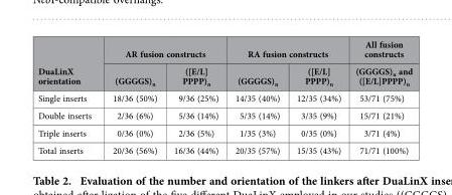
<table><thead><tr><td rowspan="2">DuaLinX orientation</td><td colspan="2">AR fusion constructs</td><td colspan="2">RA fusion constructs</td><td rowspan="2">All fusion constructs (GGGGS)<sub>n</sub> and ([E/L]PPPP)<sub>n</sub></td></tr><tr><td>(GGGGS)<sub>n</sub></td><td>([E/L] PPPP)<sub>n</sub></td><td>(GGGGS)<sub>n</sub></td><td>([E/L] PPPP)<sub>n</sub></td></tr></thead><tbody><tr><td>Single inserts</td><td>18/36 (50%)</td><td>9/36 (25%)</td><td>14/35 (40%)</td><td>12/35 (34%)</td><td>53/71 (75%)</td></tr><tr><td>Double inserts</td><td>2/36 (6%)</td><td>5/36 (14%)</td><td>5/35 (14%)</td><td>3/35 (9%)</td><td>15/71 (21%)</td></tr><tr><td>Triple inserts</td><td>0/36 (0%)</td><td>2/36 (5%)</td><td>1/35 (3%)</td><td>0/35 (0%)</td><td>3/71 (4%)</td></tr><tr><td>Total inserts</td><td>20/36 (56%)</td><td>16/36 (44%)</td><td>20/35 (57%)</td><td>15/35 (43%)</td><td>71/71 (100%)</td></tr></tbody></table>